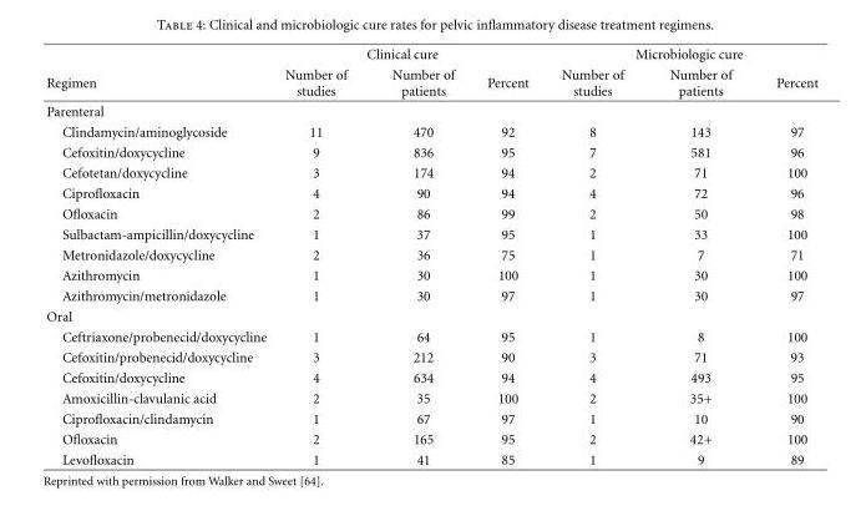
<table><thead><tr><td rowspan="2">Regimen</td><td colspan="3">Clinical cure</td><td colspan="3">Microbiologic cure</td></tr><tr><td>Number of studies</td><td>Number of patients</td><td>Percent</td><td>Number of studies</td><td>Number of patients</td><td>Percent</td></tr></thead><tbody><tr><td colspan="7">Parenteral</td></tr><tr><td>Clindamycin/aminoglycoside</td><td>11</td><td>470</td><td>92</td><td>8</td><td>143</td><td>97</td></tr><tr><td>Cefoxitin/doxycycline</td><td>9</td><td>836</td><td>95</td><td>7</td><td>581</td><td>96</td></tr><tr><td>Cefotetan/doxycycline</td><td>3</td><td>174</td><td>94</td><td>2</td><td>71</td><td>100</td></tr><tr><td>Ciprofloxacin</td><td>4</td><td>90</td><td>94</td><td>4</td><td>72</td><td>96</td></tr><tr><td>Ofloxacin</td><td>2</td><td>86</td><td>99</td><td>2</td><td>50</td><td>98</td></tr><tr><td>Sulbactam-ampicillin/doxycycline</td><td>1</td><td>37</td><td>95</td><td>1</td><td>33</td><td>100</td></tr><tr><td>Metronidazole/doxycycline</td><td>2</td><td>36</td><td>75</td><td>1</td><td>7</td><td>71</td></tr><tr><td>Azithromycin</td><td>1</td><td>30</td><td>100</td><td>1</td><td>30</td><td>100</td></tr><tr><td>Azithromycin/metronidazole</td><td>1</td><td>30</td><td>97</td><td>1</td><td>30</td><td>97</td></tr><tr><td colspan="7">Oral</td></tr><tr><td>Ceftriaxone/probenecid/doxycycline</td><td>1</td><td>64</td><td>95</td><td>1</td><td>8</td><td>100</td></tr><tr><td>Cefoxitin/probenecid/doxycycline</td><td>3</td><td>212</td><td>90</td><td>3</td><td>71</td><td>93</td></tr><tr><td>Cefoxitin/doxycycline</td><td>4</td><td>634</td><td>94</td><td>4</td><td>493</td><td>95</td></tr><tr><td>Amoxicillin-clavulanic acid</td><td>2</td><td>35</td><td>100</td><td>2</td><td>35+</td><td>100</td></tr><tr><td>Ciprofloxacin/clindamycin</td><td>1</td><td>67</td><td>97</td><td>1</td><td>10</td><td>90</td></tr><tr><td>Ofloxacin</td><td>2</td><td>165</td><td>95</td><td>2</td><td>42+</td><td>100</td></tr><tr><td>Levofloxacin</td><td>1</td><td>41</td><td>85</td><td>1</td><td>9</td><td>89</td></tr></tbody></table>